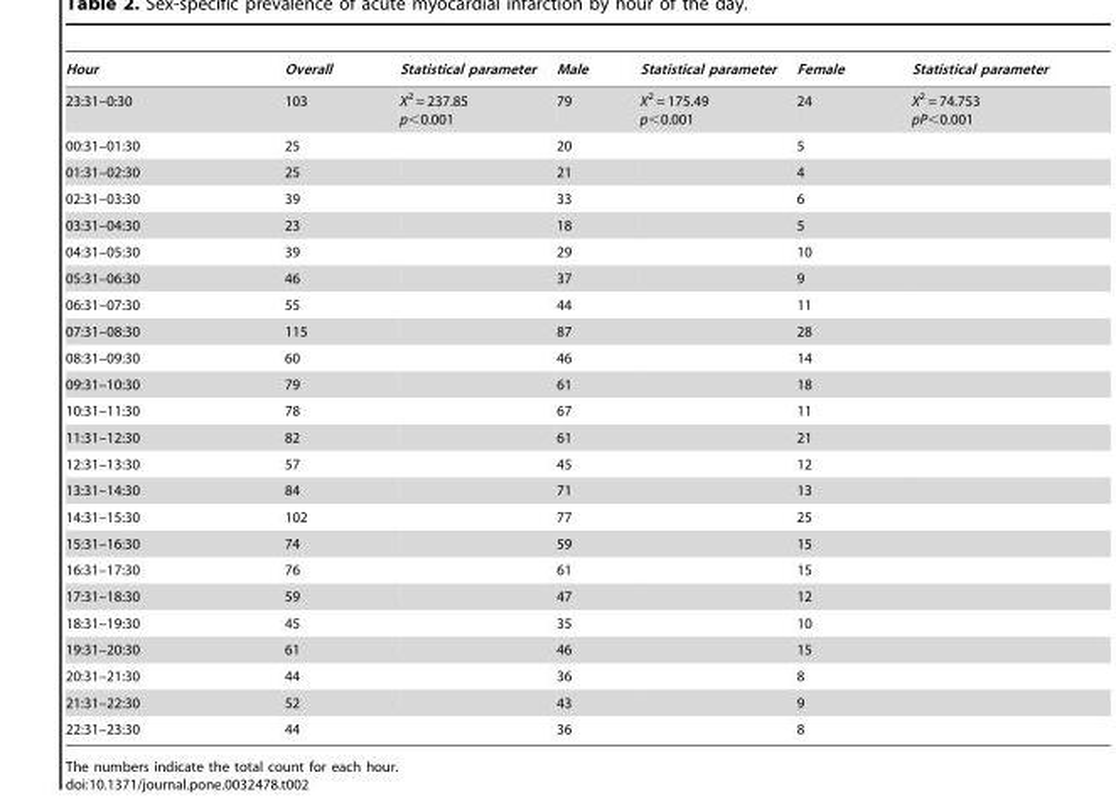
<table><thead><tr><td>Hour</td><td>Overall</td><td>Statistical parameter</td><td>Male</td><td>Statistical parameter</td><td>Female</td><td>Statistical parameter</td></tr></thead><tbody><tr><td>23:31–0:30</td><td>103</td><td>X<sup>2</sup> = 237.85 p&lt;0.001</td><td>79</td><td>X<sup>2</sup> = 175.49 p&lt;0.001</td><td>24</td><td>X<sup>2</sup> = 74.753 pP&lt;0.001</td></tr><tr><td>00:31–01:30</td><td>25</td><td></td><td>20</td><td></td><td>5</td><td></td></tr><tr><td>01:31–02:30</td><td>25</td><td></td><td>21</td><td></td><td>4</td><td></td></tr><tr><td>02:31–03:30</td><td>39</td><td></td><td>33</td><td></td><td>6</td><td></td></tr><tr><td>03:31–04:30</td><td>23</td><td></td><td>18</td><td></td><td>5</td><td></td></tr><tr><td>04:31–05:30</td><td>39</td><td></td><td>29</td><td></td><td>10</td><td></td></tr><tr><td>05:31–06:30</td><td>46</td><td></td><td>37</td><td></td><td>9</td><td></td></tr><tr><td>06:31–07:30</td><td>55</td><td></td><td>44</td><td></td><td>11</td><td></td></tr><tr><td>07:31–08:30</td><td>115</td><td></td><td>87</td><td></td><td>28</td><td></td></tr><tr><td>08:31–09:30</td><td>60</td><td></td><td>46</td><td></td><td>14</td><td></td></tr><tr><td>09:31–10:30</td><td>79</td><td></td><td>61</td><td></td><td>18</td><td></td></tr><tr><td>10:31–11:30</td><td>78</td><td></td><td>67</td><td></td><td>11</td><td></td></tr><tr><td>11:31–12:30</td><td>82</td><td></td><td>61</td><td></td><td>21</td><td></td></tr><tr><td>12:31–13:30</td><td>57</td><td></td><td>45</td><td></td><td>12</td><td></td></tr><tr><td>13:31–14:30</td><td>84</td><td></td><td>71</td><td></td><td>13</td><td></td></tr><tr><td>14:31–15:30</td><td>102</td><td></td><td>77</td><td></td><td>25</td><td></td></tr><tr><td>15:31–16:30</td><td>74</td><td></td><td>59</td><td></td><td>15</td><td></td></tr><tr><td>16:31–17:30</td><td>76</td><td></td><td>61</td><td></td><td>15</td><td></td></tr><tr><td>17:31–18:30</td><td>59</td><td></td><td>47</td><td></td><td>12</td><td></td></tr><tr><td>18:31–19:30</td><td>45</td><td></td><td>35</td><td></td><td>10</td><td></td></tr><tr><td>19:31–20:30</td><td>61</td><td></td><td>46</td><td></td><td>15</td><td></td></tr><tr><td>20:31–21:30</td><td>44</td><td></td><td>36</td><td></td><td>8</td><td></td></tr><tr><td>21:31–22:30</td><td>52</td><td></td><td>43</td><td></td><td>9</td><td></td></tr><tr><td>22:31–23:30</td><td>44</td><td></td><td>36</td><td></td><td>8</td><td></td></tr></tbody></table>